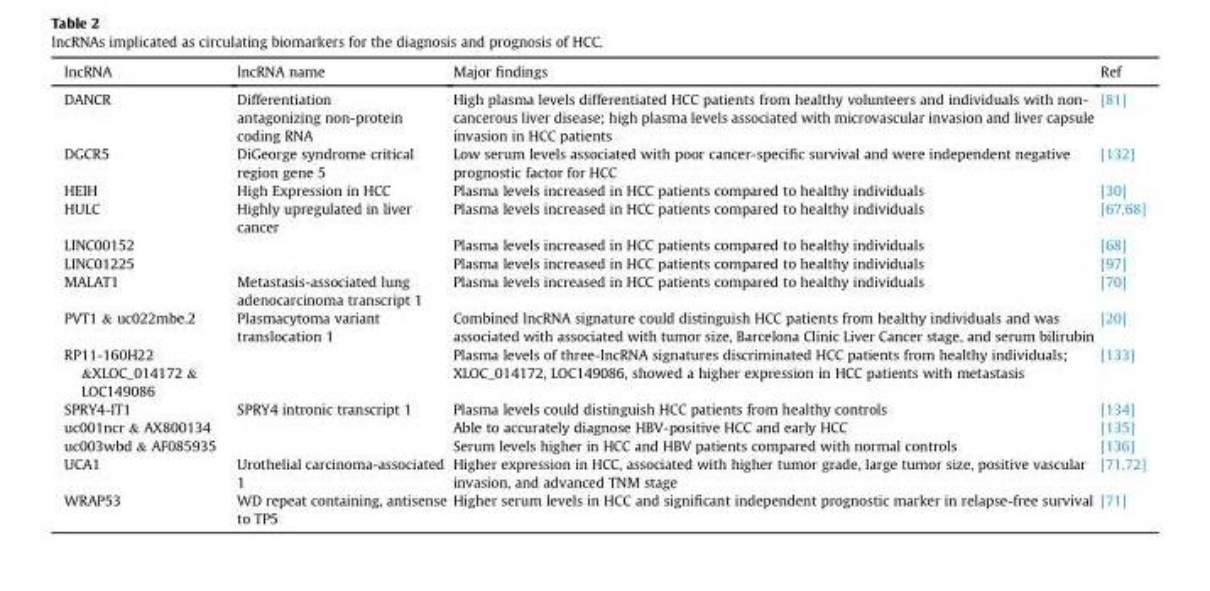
<table><thead><tr><td>lncRNA</td><td>lncRNA name</td><td>Major findings</td><td>Ref</td></tr></thead><tbody><tr><td>DANCR</td><td>Differentiation antagonizing non-protein coding RNA</td><td>High plasma levels differentiated HCC patients from healthy volunteers and individuals with non- cancerous liver disease; high plasma levels associated with microvascular invasion and liver capsule invasion in HCC patients</td><td>[81]</td></tr><tr><td>DGCR5</td><td>DiGeorge syndrome critical region gene 5</td><td>Low serum levels associated with poor cancer-specific survival and were independent negative prognostic factor for HCC</td><td>[132]</td></tr><tr><td>HEIH</td><td>High Expression in HCC</td><td>Plasma levels increased in HCC patients compared to healthy individuals</td><td>[30]</td></tr><tr><td>HULC</td><td>Highly upregulated in liver cancer</td><td>Plasma levels increased in HCC patients compared to healthy individuals</td><td>[67,68]</td></tr><tr><td>LINC00152</td><td></td><td>Plasma levels increased in HCC patients compared to healthy individuals</td><td>[68]</td></tr><tr><td>LINC01225</td><td></td><td>Plasma levels increased in HCC patients compared to healthy individuals</td><td>[97]</td></tr><tr><td>MALAT1</td><td>Metastasis-associated lung adenocarcinoma transcript 1</td><td>Plasma levels increased in HCC patients compared to healthy individuals</td><td>[70]</td></tr><tr><td>PVT1 &amp; uc022mbe.2</td><td>Plasmacytoma variant translocation 1</td><td>Combined lncRNA signature could distinguish HCC patients from healthy individuals and was associated with associated with tumor size, Barcelona Clinic Liver Cancer stage, and serum bilirubin</td><td>[20]</td></tr><tr><td>RP11-160H22 &amp;XLOC_014172 &amp; LOC149086</td><td></td><td>Plasma levels of three-lncRNA signatures discriminated HCC patients from healthy individuals; XLOC_014172, LOC149086, showed a higher expression in HCC patients with metastasis</td><td>[133]</td></tr><tr><td>SPRY4-IT1</td><td>SPRY4 intronic transcript 1</td><td>Plasma levels could distinguish HCC patients from healthy controls</td><td>[134]</td></tr><tr><td>uc001ncr &amp; AX800134</td><td></td><td>Able to accurately diagnose HBV-positive HCC and early HCC</td><td>[135]</td></tr><tr><td>uc003wbd &amp; AF085935</td><td></td><td>Serum levels higher in HCC and HBV patients compared with normal controls</td><td>[136]</td></tr><tr><td>UCA1</td><td>Urothelial carcinoma-associated 1</td><td>Higher expression in HCC, associated with higher tumor grade, large tumor size, positive vascular invasion, and advanced TNM stage</td><td>[71,72]</td></tr><tr><td>WRAP53</td><td>WD repeat containing, antisense to TP5</td><td>Higher serum levels in HCC and significant independent prognostic marker in relapse-free survival</td><td>[71]</td></tr></tbody></table>